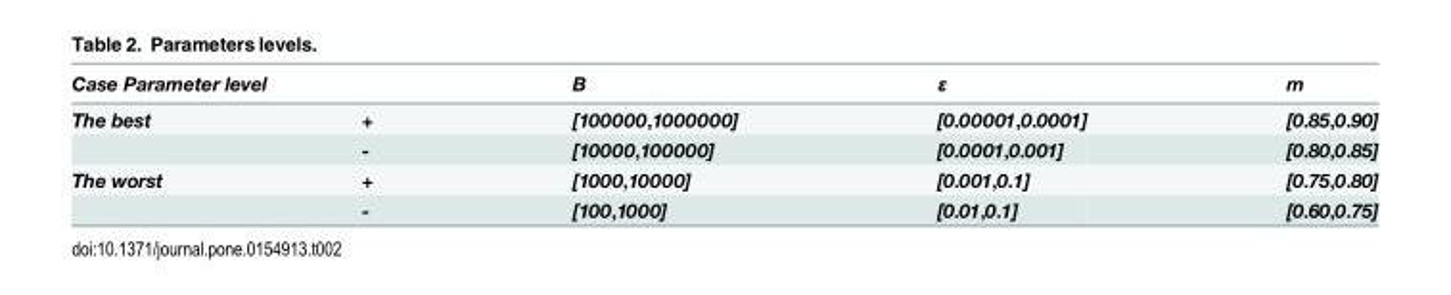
<table><thead><tr><td colspan="2">Case Parameter level</td><td rowspan="2">B [100000,1000000]</td><td rowspan="2">ε [0.00001,0.0001]</td><td rowspan="2">m [0.85,0.90]</td></tr><tr><td>The best</td><td>+</td></tr></thead><tbody><tr><td></td><td>-</td><td>[10000,100000]</td><td>[0.0001,0.001]</td><td>[0.80,0.85]</td></tr><tr><td rowspan="2">The worst</td><td>+</td><td>[1000,10000]</td><td>[0.001,0.1]</td><td>[0.75,0.80]</td></tr><tr><td>-</td><td>[100,1000]</td><td>[0.01,0.1]</td><td>[0.60,0.75]</td></tr></tbody></table>